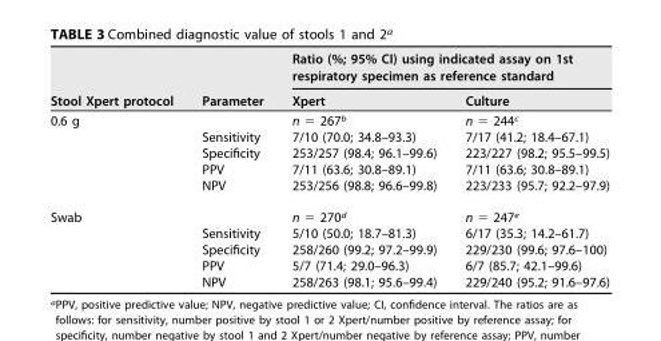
<table><thead><tr><td rowspan="2">Stool Xpert protocol</td><td rowspan="2">Parameter</td><td colspan="2">Ratio (%; 95% CI) using indicated assay on 1st respiratory specimen as reference standard</td></tr><tr><td>Xpert</td><td>Culture</td></tr></thead><tbody><tr><td rowspan="5">0.6 g</td><td></td><td>n = 267<sup>b</sup></td><td>n = 244<sup>c</sup></td></tr><tr><td>Sensitivity</td><td>7/10 (70.0; 34.8–93.3)</td><td>7/17 (41.2; 18.4–67.1)</td></tr><tr><td>Specificity</td><td>253/257 (98.4; 96.1–99.6)</td><td>223/227 (98.2; 95.5–99.5)</td></tr><tr><td>PPV</td><td>7/11 (63.6; 30.8–89.1)</td><td>7/11 (63.6; 30.8–89.1)</td></tr><tr><td>NPV</td><td>253/256 (98.8; 96.6–99.8)</td><td>223/233 (95.7; 92.2–97.9)</td></tr><tr><td rowspan="5">Swab</td><td></td><td>n = 270<sup>d</sup></td><td>n = 247<sup>e</sup></td></tr><tr><td>Sensitivity</td><td>5/10 (50.0; 18.7–81.3)</td><td>6/17 (35.3; 14.2–61.7)</td></tr><tr><td>Specificity</td><td>258/260 (99.2; 97.2–99.9)</td><td>229/230 (99.6; 97.6–100)</td></tr><tr><td>PPV</td><td>5/7 (71.4; 29.0–96.3)</td><td>6/7 (85.7; 42.1–99.6)</td></tr><tr><td>NPV</td><td>258/263 (98.1; 95.6–99.4)</td><td>229/240 (95.2; 91.6–97.6)</td></tr></tbody></table>